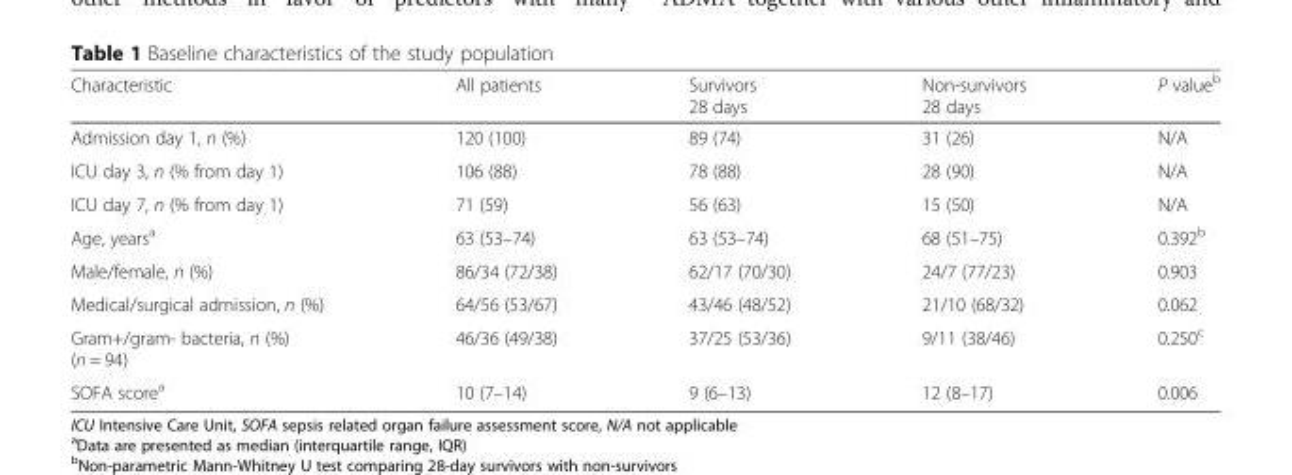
<table><thead><tr><td>Characteristic</td><td>All patients</td><td>Survivors 28 days</td><td>Non-survivors 28 days</td><td>P value<sup>b</sup></td></tr></thead><tbody><tr><td>Admission day 1, n (%)</td><td>120 (100)</td><td>89 (74)</td><td>31 (26)</td><td>N/A</td></tr><tr><td>ICU day 3, n (% from day 1)</td><td>106 (88)</td><td>78 (88)</td><td>28 (90)</td><td>N/A</td></tr><tr><td>ICU day 7, n (% from day 1)</td><td>71 (59)</td><td>56 (63)</td><td>15 (50)</td><td>N/A</td></tr><tr><td>Age, years<sup>a</sup></td><td>63 (53–74)</td><td>63 (53–74)</td><td>68 (51–75)</td><td>0.392<sup>b</sup></td></tr><tr><td>Male/female, n (%)</td><td>86/34 (72/38)</td><td>62/17 (70/30)</td><td>24/7 (77/23)</td><td>0.903</td></tr><tr><td>Medical/surgical admission, n (%)</td><td>64/56 (53/67)</td><td>43/46 (48/52)</td><td>21/10 (68/32)</td><td>0.062</td></tr><tr><td>Gram+/gram- bacteria, n (%) (n = 94)</td><td>46/36 (49/38)</td><td>37/25 (53/36)</td><td>9/11 (38/46)</td><td>0.250<sup>c</sup></td></tr><tr><td>SOFA score<sup>a</sup></td><td>10 (7–14)</td><td>9 (6–13)</td><td>12 (8–17)</td><td>0.006</td></tr></tbody></table>